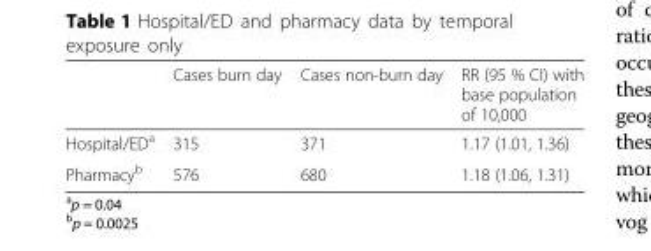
<table><thead><tr><td></td><td>Cases burn day</td><td>Cases non-burn day</td><td>RR (95 % CI) with base population of 10,000</td></tr></thead><tbody><tr><td>Hospital/ED<sup>a</sup></td><td>315</td><td>371</td><td>1.17 (1.01, 1.36)</td></tr><tr><td>Pharmacy<sup>b</sup></td><td>576</td><td>680</td><td>1.18 (1.06, 1.31)</td></tr></tbody></table>